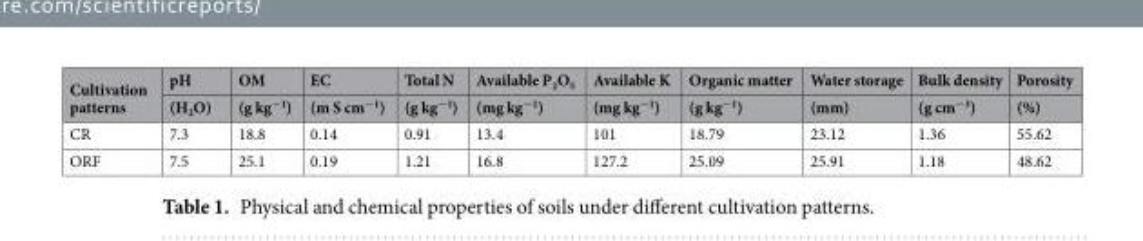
<table><thead><tr><td rowspan="2">Cultivation patterns</td><td rowspan="2">pH (H<sub>2</sub>O)</td><td rowspan="2">OM (g kg<sup>−1</sup>)</td><td rowspan="2">EC (m S cm<sup>−1</sup>)</td><td rowspan="2">Total N (g kg<sup>−1</sup>)</td><td rowspan="2">Available P<sub>2</sub>O<sub>5</sub> (mg kg<sup>−1</sup>)</td><td rowspan="2">Available K (mg kg<sup>−1</sup>)</td><td rowspan="2">Organic matter (g kg<sup>−1</sup>)</td><td rowspan="2">Water storage (mm)</td><td rowspan="2">Bulk density (g cm<sup>−3</sup>)</td><td rowspan="2">Porosity (%)</td></tr><tr></tr></thead><tbody><tr><td>CR</td><td>7.3</td><td>18.8</td><td>0.14</td><td>0.91</td><td>13.4</td><td>101</td><td>18.79</td><td>23.12</td><td>1.36</td><td>55.62</td></tr><tr><td>ORF</td><td>7.5</td><td>25.1</td><td>0.19</td><td>1.21</td><td>16.8</td><td>127.2</td><td>25.09</td><td>25.91</td><td>1.18</td><td>48.62</td></tr></tbody></table>